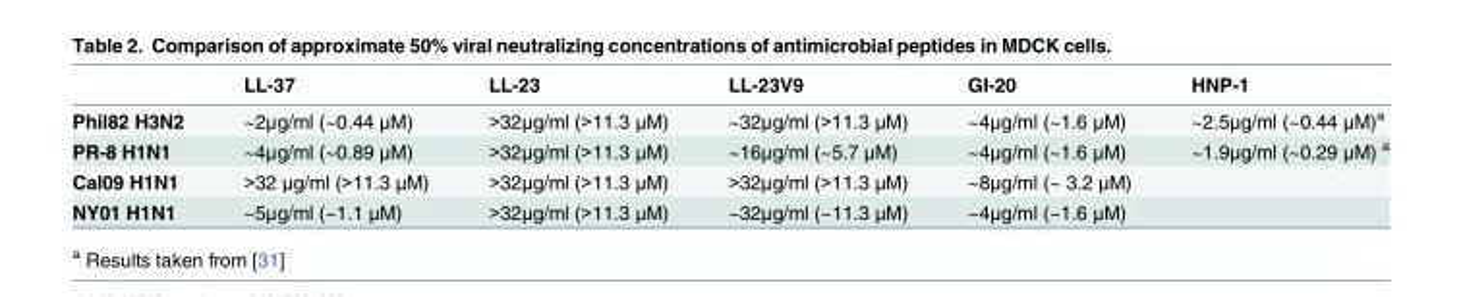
<table><thead><tr><td></td><td>LL-37</td><td>LL-23</td><td>LL-23V9</td><td>GI-20</td><td>HNP-1</td></tr></thead><tbody><tr><td>Phil82 H3N2</td><td>~2μg/ml (~0.44 μM)</td><td>&gt;32μg/ml (&gt;11.3 μM)</td><td>~32μg/ml (&gt;11.3 μM)</td><td>~4μg/ml (~1.6 μM)</td><td>~2.5μg/ml (~0.44 μM)<sup>a</sup></td></tr><tr><td>PR-8 H1N1</td><td>~4μg/ml (~0.89 μM)</td><td>&gt;32μg/ml (&gt;11.3 μM)</td><td>~16μg/ml (~5.7 μM)</td><td>~4μg/ml (~1.6 μM)</td><td>~1.9μg/ml (~0.29 μM) <sup>a</sup></td></tr><tr><td>Cal09 H1N1</td><td>&gt;32 μg/ml (&gt;11.3 μM)</td><td>&gt;32μg/ml (&gt;11.3 μM)</td><td>&gt;32μg/ml (&gt;11.3 μM)</td><td>~8μg/ml (~ 3.2 μM)</td><td></td></tr><tr><td>NY01 H1N1</td><td>~5μg/ml (~1.1 μM)</td><td>&gt;32μg/ml (&gt;11.3 μM)</td><td>~32μg/ml (~11.3 μM)</td><td>~4μg/ml (~1.6 μM)</td><td></td></tr></tbody></table>